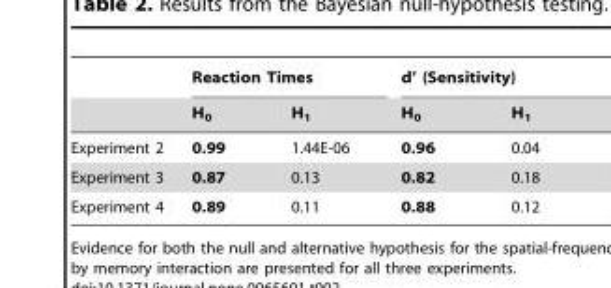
<table><thead><tr><td rowspan="2"></td><td colspan="2">Reaction Times</td><td colspan="2">d’ (Sensitivity)</td></tr><tr><td>H<sub>0</sub></td><td>H<sub>1</sub></td><td>H<sub>0</sub></td><td>H<sub>1</sub></td></tr></thead><tbody><tr><td>Experiment 2</td><td>0.99</td><td>1.44E-06</td><td>0.96</td><td>0.04</td></tr><tr><td>Experiment 3</td><td>0.87</td><td>0.13</td><td>0.82</td><td>0.18</td></tr><tr><td>Experiment 4</td><td>0.89</td><td>0.11</td><td>0.88</td><td>0.12</td></tr></tbody></table>